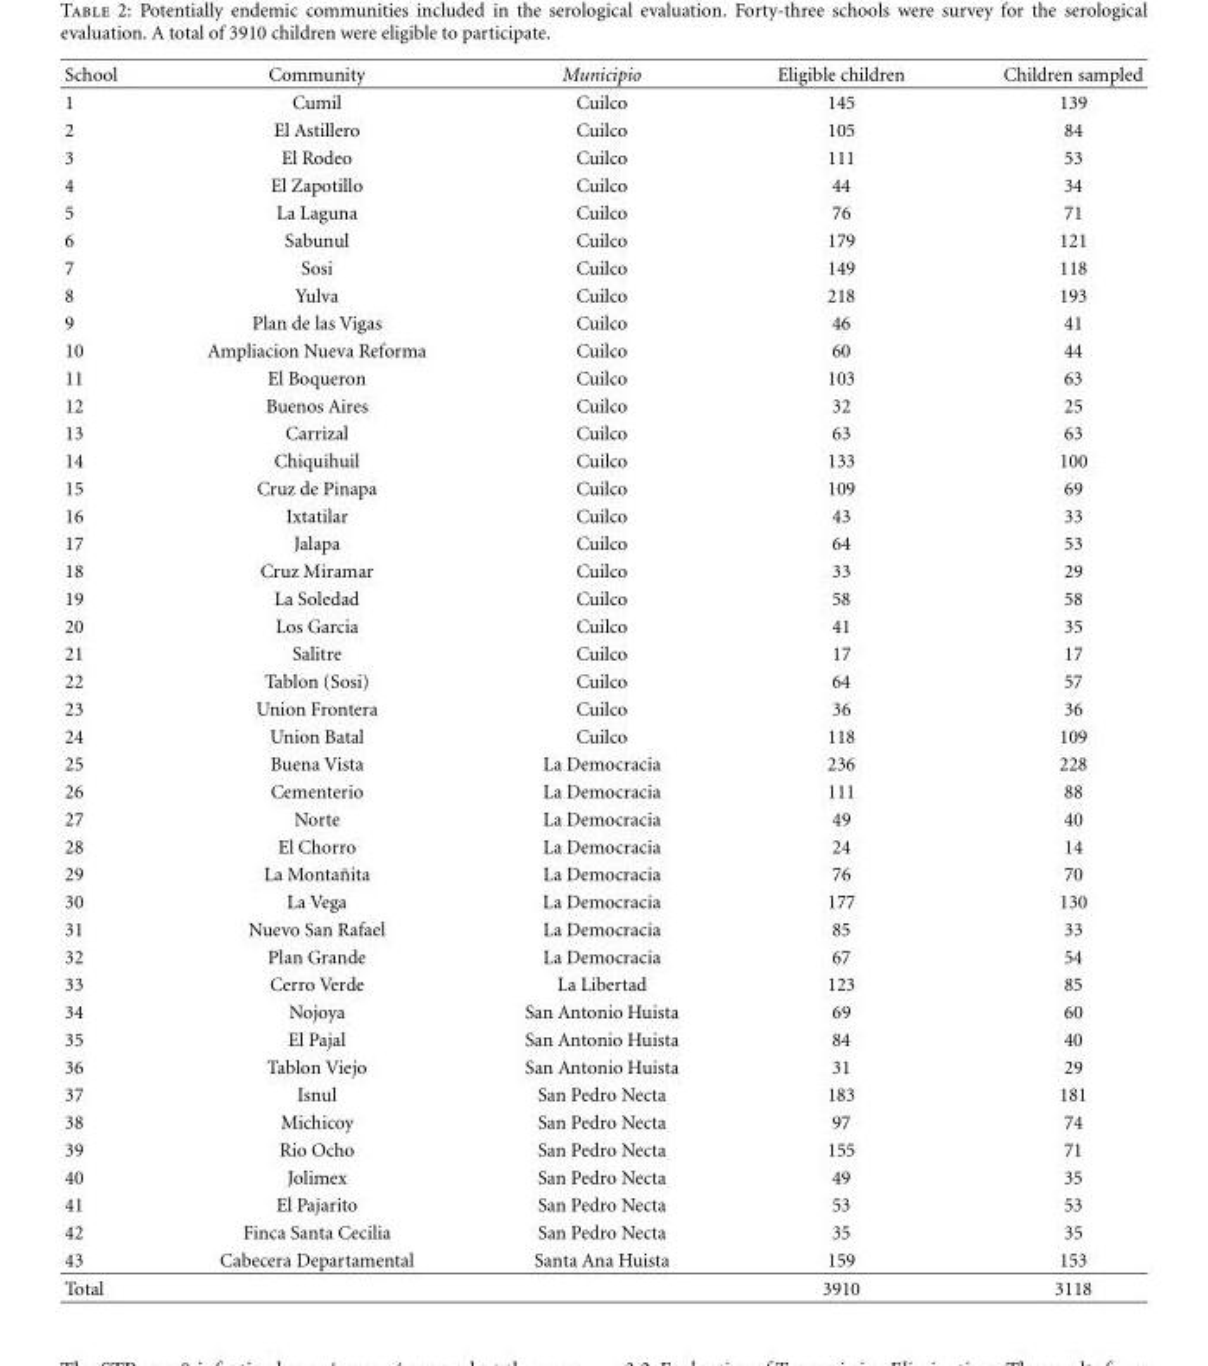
<table><thead><tr><td>School</td><td>Community</td><td>Municipio</td><td>Eligible children</td><td>Children sampled</td></tr></thead><tbody><tr><td>1</td><td>Cumil</td><td>Cuilco</td><td>145</td><td>139</td></tr><tr><td>2</td><td>El Astillero</td><td>Cuilco</td><td>105</td><td>84</td></tr><tr><td>3</td><td>El Rodeo</td><td>Cuilco</td><td>111</td><td>53</td></tr><tr><td>4</td><td>El Zapotillo</td><td>Cuilco</td><td>44</td><td>34</td></tr><tr><td>5</td><td>La Laguna</td><td>Cuilco</td><td>76</td><td>71</td></tr><tr><td>6</td><td>Sabunul</td><td>Cuilco</td><td>179</td><td>121</td></tr><tr><td>7</td><td>Sosi</td><td>Cuilco</td><td>149</td><td>118</td></tr><tr><td>8</td><td>Yulva</td><td>Cuilco</td><td>218</td><td>193</td></tr><tr><td>9</td><td>Plan de las Vigas</td><td>Cuilco</td><td>46</td><td>41</td></tr><tr><td>10</td><td>Ampliacion Nueva Reforma</td><td>Cuilco</td><td>60</td><td>44</td></tr><tr><td>11</td><td>El Boqueron</td><td>Cuilco</td><td>103</td><td>63</td></tr><tr><td>12</td><td>Buenos Aires</td><td>Cuilco</td><td>32</td><td>25</td></tr><tr><td>13</td><td>Carrizal</td><td>Cuilco</td><td>63</td><td>63</td></tr><tr><td>14</td><td>Chiquihuil</td><td>Cuilco</td><td>133</td><td>100</td></tr><tr><td>15</td><td>Cruz de Pinapa</td><td>Cuilco</td><td>109</td><td>69</td></tr><tr><td>16</td><td>Ixtatilar</td><td>Cuilco</td><td>43</td><td>33</td></tr><tr><td>17</td><td>Jalapa</td><td>Cuilco</td><td>64</td><td>53</td></tr><tr><td>18</td><td>Cruz Miramar</td><td>Cuilco</td><td>33</td><td>29</td></tr><tr><td>19</td><td>La Soledad</td><td>Cuilco</td><td>58</td><td>58</td></tr><tr><td>20</td><td>Los Garcia</td><td>Cuilco</td><td>41</td><td>35</td></tr><tr><td>21</td><td>Salitre</td><td>Cuilco</td><td>17</td><td>17</td></tr><tr><td>22</td><td>Tablon (Sosi)</td><td>Cuilco</td><td>64</td><td>57</td></tr><tr><td>23</td><td>Union Frontera</td><td>Cuilco</td><td>36</td><td>36</td></tr><tr><td>24</td><td>Union Batal</td><td>Cuilco</td><td>118</td><td>109</td></tr><tr><td>25</td><td>Buena Vista</td><td>La Democracia</td><td>236</td><td>228</td></tr><tr><td>26</td><td>Cementerio</td><td>La Democracia</td><td>111</td><td>88</td></tr><tr><td>27</td><td>Norte</td><td>La Democracia</td><td>49</td><td>40</td></tr><tr><td>28</td><td>El Chorro</td><td>La Democracia</td><td>24</td><td>14</td></tr><tr><td>29</td><td>La Monta˜nita</td><td>La Democracia</td><td>76</td><td>70</td></tr><tr><td>30</td><td>La Vega</td><td>La Democracia</td><td>177</td><td>130</td></tr><tr><td>31</td><td>Nuevo San Rafael</td><td>La Democracia</td><td>85</td><td>33</td></tr><tr><td>32</td><td>Plan Grande</td><td>La Democracia</td><td>67</td><td>54</td></tr><tr><td>33</td><td>Cerro Verde</td><td>La Libertad</td><td>123</td><td>85</td></tr><tr><td>34</td><td>Nojoya</td><td>San Antonio Huista</td><td>69</td><td>60</td></tr><tr><td>35</td><td>El Pajal</td><td>San Antonio Huista</td><td>84</td><td>40</td></tr><tr><td>36</td><td>Tablon Viejo</td><td>San Antonio Huista</td><td>31</td><td>29</td></tr><tr><td>37</td><td>Isnul</td><td>San Pedro Necta</td><td>183</td><td>181</td></tr><tr><td>38</td><td>Michicoy</td><td>San Pedro Necta</td><td>97</td><td>74</td></tr><tr><td>39</td><td>Rio Ocho</td><td>San Pedro Necta</td><td>155</td><td>71</td></tr><tr><td>40</td><td>Jolimex</td><td>San Pedro Necta</td><td>49</td><td>35</td></tr><tr><td>41</td><td>El Pajarito</td><td>San Pedro Necta</td><td>53</td><td>53</td></tr><tr><td>42</td><td>Finca Santa Cecilia</td><td>San Pedro Necta</td><td>35</td><td>35</td></tr><tr><td>43</td><td>Cabecera Departamental</td><td>Santa Ana Huista</td><td>159</td><td>153</td></tr><tr><td>Total</td><td></td><td></td><td>3910</td><td>3118</td></tr></tbody></table>